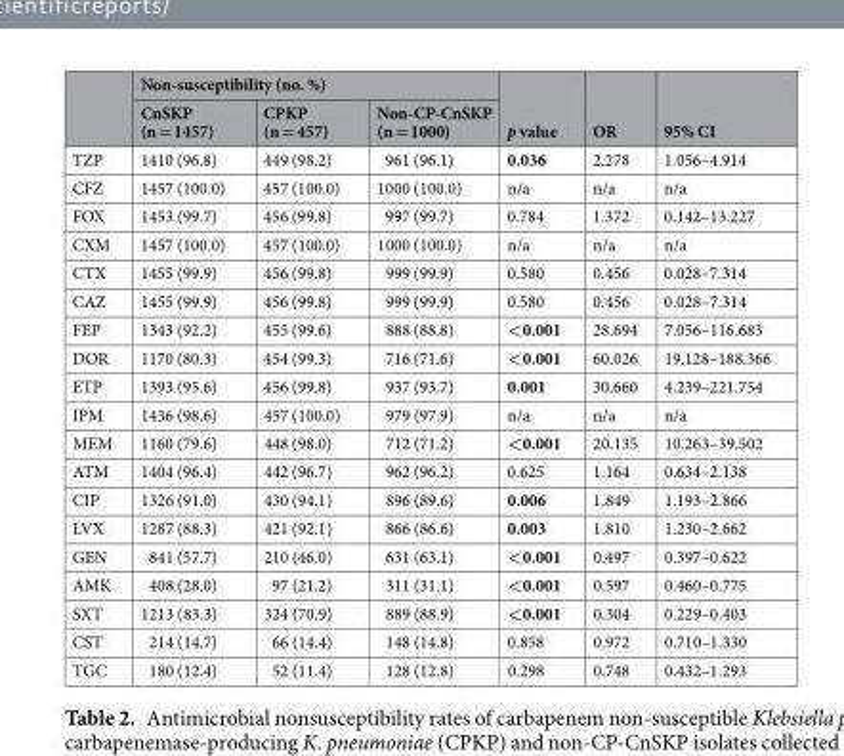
<table><thead><tr><td rowspan="2"></td><td colspan="3">Non-susceptibility (no. %)</td><td rowspan="2">p value</td><td rowspan="2">OR</td><td rowspan="2">95% CI</td></tr><tr><td>CnSKP (n = 1457)</td><td>CPKP (n = 457)</td><td>Non-CP-CnSKP (n = 1000)</td></tr></thead><tbody><tr><td>TZP</td><td>1410 (96.8)</td><td>449 (98.2)</td><td>961 (96.1)</td><td>0.036</td><td>2.278</td><td>1.056–4.914</td></tr><tr><td>CFZ</td><td>1457 (100.0)</td><td>457 (100.0)</td><td>1000 (100.0)</td><td>n/a</td><td>n/a</td><td>n/a</td></tr><tr><td>FOX</td><td>1453 (99.7)</td><td>456 (99.8)</td><td>997 (99.7)</td><td>0.784</td><td>1.372</td><td>0.142–13.227</td></tr><tr><td>CXM</td><td>1457 (100.0)</td><td>457 (100.0)</td><td>1000 (100.0)</td><td>n/a</td><td>n/a</td><td>n/a</td></tr><tr><td>CTX</td><td>1455 (99.9)</td><td>456 (99.8)</td><td>999 (99.9)</td><td>0.580</td><td>0.456</td><td>0.028–7.314</td></tr><tr><td>CAZ</td><td>1455 (99.9)</td><td>456 (99.8)</td><td>999 (99.9)</td><td>0.580</td><td>0.456</td><td>0.028–7.314</td></tr><tr><td>FEP</td><td>1343 (92.2)</td><td>455 (99.6)</td><td>888 (88.8)</td><td>&lt;0.001</td><td>28.694</td><td>7.056–116.683</td></tr><tr><td>DOR</td><td>1170 (80.3)</td><td>454 (99.3)</td><td>716 (71.6)</td><td>&lt;0.001</td><td>60.026</td><td>19.128–188.366</td></tr><tr><td>ETP</td><td>1393 (95.6)</td><td>456 (99.8)</td><td>937 (93.7)</td><td>0.001</td><td>30.660</td><td>4.239–221.754</td></tr><tr><td>IPM</td><td>1436 (98.6)</td><td>457 (100.0)</td><td>979 (97.9)</td><td>n/a</td><td>n/a</td><td>n/a</td></tr><tr><td>MEM</td><td>1160 (79.6)</td><td>448 (98.0)</td><td>712 (71.2)</td><td>&lt;0.001</td><td>20.135</td><td>10.263–39.502</td></tr><tr><td>ATM</td><td>1404 (96.4)</td><td>442 (96.7)</td><td>962 (96.2)</td><td>0.625</td><td>1.164</td><td>0.634–2.138</td></tr><tr><td>CIP</td><td>1326 (91.0)</td><td>430 (94.1)</td><td>896 (89.6)</td><td>0.006</td><td>1.849</td><td>1.193–2.866</td></tr><tr><td>LVX</td><td>1287 (88.3)</td><td>421 (92.1)</td><td>866 (86.6)</td><td>0.003</td><td>1.810</td><td>1.230–2.662</td></tr><tr><td>GEN</td><td>841 (57.7)</td><td>210 (46.0)</td><td>631 (63.1)</td><td>&lt;0.001</td><td>0.497</td><td>0.397–0.622</td></tr><tr><td>AMK</td><td>408 (28.0)</td><td>97 (21.2)</td><td>311 (31.1)</td><td>&lt;0.001</td><td>0.597</td><td>0.460–0.775</td></tr><tr><td>SXT</td><td>1213 (83.3)</td><td>324 (70.9)</td><td>889 (88.9)</td><td>&lt;0.001</td><td>0.304</td><td>0.229–0.403</td></tr><tr><td>CST</td><td>214 (14.7)</td><td>66 (14.4)</td><td>148 (14.8)</td><td>0.858</td><td>0.972</td><td>0.710–1.330</td></tr><tr><td>TGC</td><td>180 (12.4)</td><td>52 (11.4)</td><td>128 (12.8)</td><td>0.298</td><td>0.748</td><td>0.432–1.293</td></tr></tbody></table>